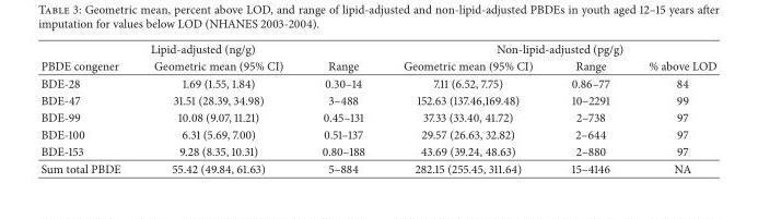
<table><thead><tr><td colspan="3">Lipid-adjusted (ng/g)</td><td colspan="3">Non-lipid-adjusted (pg/g)</td></tr><tr><td>PBDE congener</td><td>Geometric mean (95% CI)</td><td>Range</td><td>Geometric mean (95% CI)</td><td>Range</td><td>% above LOD</td></tr></thead><tbody><tr><td>BDE-28</td><td>1.69 (1.55, 1.84)</td><td>0.30–14</td><td>7.11 (6.52, 7.75)</td><td>0.86–77</td><td>84</td></tr><tr><td>BDE-47</td><td>31.51 (28.39, 34.98)</td><td>3–488</td><td>152.63 (137.46,169.48)</td><td>10–2291</td><td>99</td></tr><tr><td>BDE-99</td><td>10.08 (9.07, 11.21)</td><td>0.45–131</td><td>37.33 (33.40, 41.72)</td><td>2–738</td><td>97</td></tr><tr><td>BDE-100</td><td>6.31 (5.69, 7.00)</td><td>0.51–137</td><td>29.57 (26.63, 32.82)</td><td>2–644</td><td>97</td></tr><tr><td>BDE-153</td><td>9.28 (8.35, 10.31)</td><td>0.80–188</td><td>43.69 (39.24, 48.63)</td><td>2–880</td><td>97</td></tr><tr><td>Sum total PBDE</td><td>55.42 (49.84, 61.63)</td><td>5–884</td><td>282.15 (255.45, 311.64)</td><td>15–4146</td><td>NA</td></tr></tbody></table>